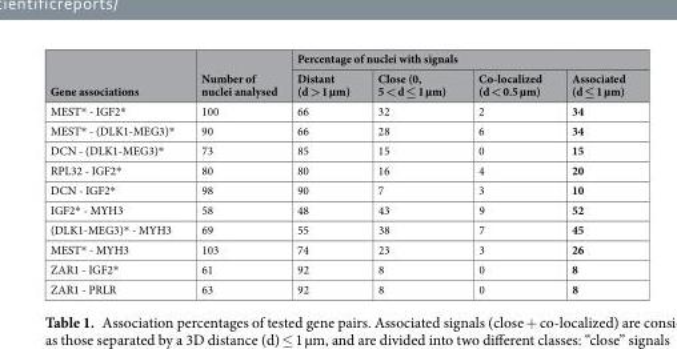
<table><thead><tr><td rowspan="2">Gene associations</td><td rowspan="2">Number of nuclei analysed</td><td colspan="4">Percentage of nuclei with signals</td></tr><tr><td>Distant (d &gt; 1 µm)</td><td>Close (0, 5 &lt; d ≤ 1 µm)</td><td>Co-localized (d &lt; 0.5 µm)</td><td>Associated (d ≤ 1 µm)</td></tr></thead><tbody><tr><td>MEST* - IGF2*</td><td>100</td><td>66</td><td>32</td><td>2</td><td>34</td></tr><tr><td>MEST* - (DLK1-MEG3)*</td><td>90</td><td>66</td><td>28</td><td>6</td><td>34</td></tr><tr><td>DCN - (DLK1-MEG3)*</td><td>73</td><td>85</td><td>15</td><td>0</td><td>15</td></tr><tr><td>RPL32 - IGF2*</td><td>80</td><td>80</td><td>16</td><td>4</td><td>20</td></tr><tr><td>DCN - IGF2*</td><td>98</td><td>90</td><td>7</td><td>3</td><td>10</td></tr><tr><td>IGF2* - MYH3</td><td>58</td><td>48</td><td>43</td><td>9</td><td>52</td></tr><tr><td>(DLK1-MEG3)* - MYH3</td><td>69</td><td>55</td><td>38</td><td>7</td><td>45</td></tr><tr><td>MEST* - MYH3</td><td>103</td><td>74</td><td>23</td><td>3</td><td>26</td></tr><tr><td>ZAR1 - IGF2*</td><td>61</td><td>92</td><td>8</td><td>0</td><td>8</td></tr><tr><td>ZAR1 - PRLR</td><td>63</td><td>92</td><td>8</td><td>0</td><td>8</td></tr></tbody></table>